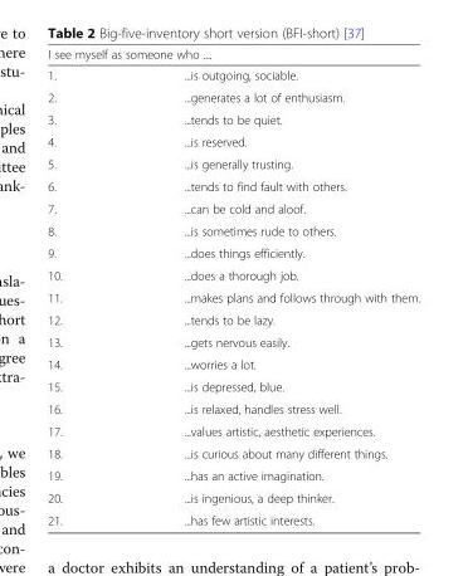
<table><thead><tr><td colspan="2">I see myself as someone who ....</td></tr><tr><td>1.</td><td>...is outgoing, sociable.</td></tr></thead><tbody><tr><td>2.</td><td>...generates a lot of enthusiasm.</td></tr><tr><td>3.</td><td>...tends to be quiet.</td></tr><tr><td>4.</td><td>...is reserved.</td></tr><tr><td>5.</td><td>...is generally trusting.</td></tr><tr><td>6.</td><td>...tends to find fault with others.</td></tr><tr><td>7.</td><td>...can be cold and aloof.</td></tr><tr><td>8.</td><td>...is sometimes rude to others.</td></tr><tr><td>9.</td><td>...does things efficiently.</td></tr><tr><td>10.</td><td>...does a thorough job.</td></tr><tr><td>11.</td><td>...makes plans and follows through with them.</td></tr><tr><td>12.</td><td>...tends to be lazy.</td></tr><tr><td>13.</td><td>...gets nervous easily.</td></tr><tr><td>14.</td><td>...worries a lot.</td></tr><tr><td>15.</td><td>...is depressed, blue.</td></tr><tr><td>16.</td><td>...is relaxed, handles stress well.</td></tr><tr><td>17.</td><td>...values artistic, aesthetic experiences.</td></tr><tr><td>18.</td><td>...is curious about many different things.</td></tr><tr><td>19.</td><td>...has an active imagination.</td></tr><tr><td>20.</td><td>...is ingenious, a deep thinker.</td></tr><tr><td>21.</td><td>...has few artistic interests.</td></tr></tbody></table>